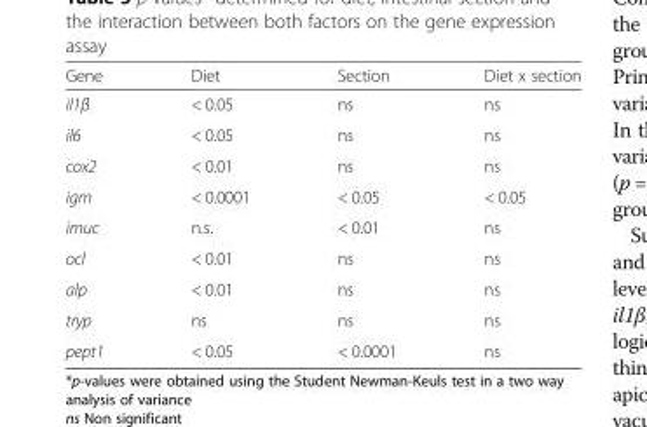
<table><thead><tr><td>Gene</td><td>Diet</td><td>Section</td><td>Diet x section</td></tr></thead><tbody><tr><td>il1β</td><td>&lt; 0.05</td><td>ns</td><td>ns</td></tr><tr><td>il6</td><td>&lt; 0.05</td><td>ns</td><td>ns</td></tr><tr><td>cox2</td><td>&lt; 0.01</td><td>ns</td><td>ns</td></tr><tr><td>igm</td><td>&lt; 0.0001</td><td>&lt; 0.05</td><td>&lt; 0.05</td></tr><tr><td>imuc</td><td>n.s.</td><td>&lt; 0.01</td><td>ns</td></tr><tr><td>ocl</td><td>&lt; 0.01</td><td>ns</td><td>ns</td></tr><tr><td>alp</td><td>&lt; 0.01</td><td>ns</td><td>ns</td></tr><tr><td>tryp</td><td>ns</td><td>ns</td><td>ns</td></tr><tr><td>pept1</td><td>&lt; 0.05</td><td>&lt; 0.0001</td><td>ns</td></tr></tbody></table>